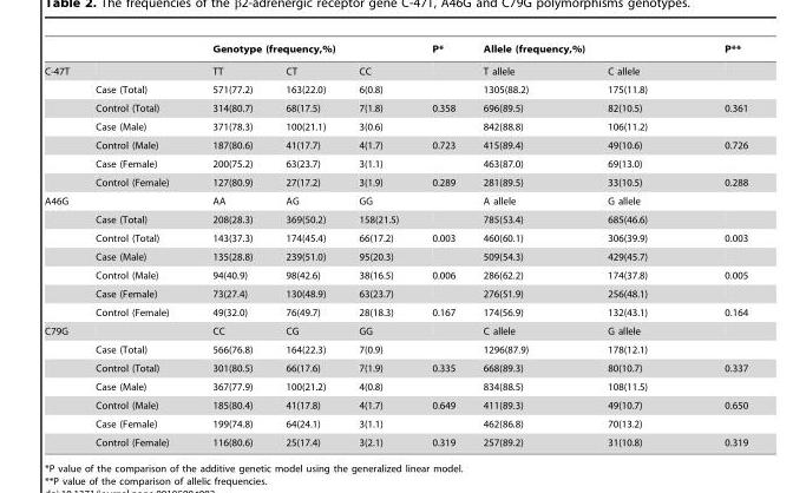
<table><thead><tr><td rowspan="2">C-47T</td><td rowspan="2"></td><td colspan="3">Genotype (frequency,%)</td><td rowspan="2">P*</td><td colspan="2">Allele (frequency,%)</td><td rowspan="2">P**</td></tr><tr><td>TT</td><td>CT</td><td>CC</td><td>T allele</td><td>C allele</td></tr></thead><tbody><tr><td></td><td>Case (Total)</td><td>571(77.2)</td><td>163(22.0)</td><td>6(0.8)</td><td></td><td>1305(88.2)</td><td>175(11.8)</td><td></td></tr><tr><td></td><td>Control (Total)</td><td>314(80.7)</td><td>68(17.5)</td><td>7(1.8)</td><td>0.358</td><td>696(89.5)</td><td>82(10.5)</td><td>0.361</td></tr><tr><td></td><td>Case (Male)</td><td>371(78.3)</td><td>100(21.1)</td><td>3(0.6)</td><td></td><td>842(88.8)</td><td>106(11.2)</td><td></td></tr><tr><td></td><td>Control (Male)</td><td>187(80.6)</td><td>41(17.7)</td><td>4(1.7)</td><td>0.723</td><td>415(89.4)</td><td>49(10.6)</td><td>0.726</td></tr><tr><td></td><td>Case (Female)</td><td>200(75.2)</td><td>63(23.7)</td><td>3(1.1)</td><td></td><td>463(87.0)</td><td>69(13.0)</td><td></td></tr><tr><td></td><td>Control (Female)</td><td>127(80.9)</td><td>27(17.2)</td><td>3(1.9)</td><td>0.289</td><td>281(89.5)</td><td>33(10.5)</td><td>0.288</td></tr><tr><td rowspan="7">A46G</td><td></td><td>AA</td><td>AG</td><td>GG</td><td></td><td>A allele</td><td>G allele</td><td></td></tr><tr><td>Case (Total)</td><td>208(28.3)</td><td>369(50.2)</td><td>158(21.5)</td><td></td><td>785(53.4)</td><td>685(46.6)</td><td></td></tr><tr><td>Control (Total)</td><td>143(37.3)</td><td>174(45.4)</td><td>66(17.2)</td><td>0.003</td><td>460(60.1)</td><td>306(39.9)</td><td>0.003</td></tr><tr><td>Case (Male)</td><td>135(28.8)</td><td>239(51.0)</td><td>95(20.3)</td><td></td><td>509(54.3)</td><td>429(45.7)</td><td></td></tr><tr><td>Control (Male)</td><td>94(40.9)</td><td>98(42.6)</td><td>38(16.5)</td><td>0.006</td><td>286(62.2)</td><td>174(37.8)</td><td>0.005</td></tr><tr><td>Case (Female)</td><td>73(27.4)</td><td>130(48.9)</td><td>63(23.7)</td><td></td><td>276(51.9)</td><td>256(48.1)</td><td></td></tr><tr><td>Control (Female)</td><td>49(32.0)</td><td>76(49.7)</td><td>28(18.3)</td><td>0.167</td><td>174(56.9)</td><td>132(43.1)</td><td>0.164</td></tr><tr><td rowspan="7">C79G</td><td></td><td>CC</td><td>CG</td><td>GG</td><td></td><td>C allele</td><td>G allele</td><td></td></tr><tr><td>Case (Total)</td><td>566(76.8)</td><td>164(22.3)</td><td>7(0.9)</td><td></td><td>1296(87.9)</td><td>178(12.1)</td><td></td></tr><tr><td>Control (Total)</td><td>301(80.5)</td><td>66(17.6)</td><td>7(1.9)</td><td>0.335</td><td>668(89.3)</td><td>80(10.7)</td><td>0.337</td></tr><tr><td>Case (Male)</td><td>367(77.9)</td><td>100(21.2)</td><td>4(0.8)</td><td></td><td>834(88.5)</td><td>108(11.5)</td><td></td></tr><tr><td>Control (Male)</td><td>185(80.4)</td><td>41(17.8)</td><td>4(1.7)</td><td>0.649</td><td>411(89.3)</td><td>49(10.7)</td><td>0.650</td></tr><tr><td>Case (Female)</td><td>199(74.8)</td><td>64(24.1)</td><td>3(1.1)</td><td></td><td>462(86.8)</td><td>70(13.2)</td><td></td></tr><tr><td>Control (Female)</td><td>116(80.6)</td><td>25(17.4)</td><td>3(2.1)</td><td>0.319</td><td>257(89.2)</td><td>31(10.8)</td><td>0.319</td></tr></tbody></table>